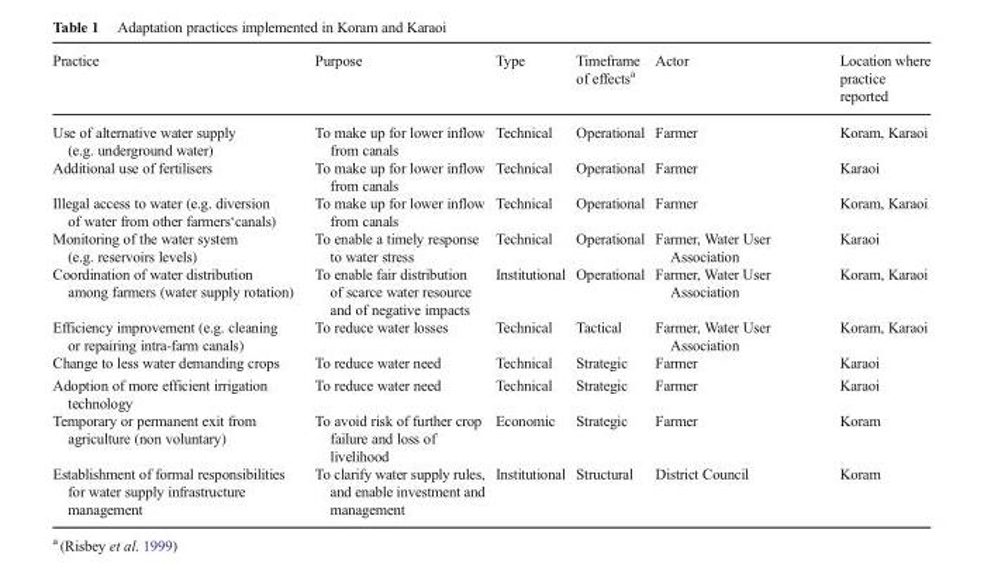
<table><thead><tr><td>Practice</td><td>Purpose</td><td>Type</td><td>Timeframe of effects<sup>a</sup></td><td>Actor</td><td>Location where practice reported</td></tr></thead><tbody><tr><td>Use of alternative water supply (e.g. underground water)</td><td>To make up for lower inflow from canals</td><td>Technical</td><td>Operational</td><td>Farmer</td><td>Koram, Karaoi</td></tr><tr><td>Additional use of fertilisers</td><td>To make up for lower inflow from canals</td><td>Technical</td><td>Operational</td><td>Farmer</td><td>Karaoi</td></tr><tr><td>Illegal access to water (e.g. diversion of water from other farmers‘canals)</td><td>To make up for lower inflow from canals</td><td>Technical</td><td>Operational</td><td>Farmer</td><td>Koram, Karaoi</td></tr><tr><td>Monitoring of the water system (e.g. reservoirs levels)</td><td>To enable a timely response to water stress</td><td>Technical</td><td>Operational</td><td>Farmer, Water User Association</td><td>Karaoi</td></tr><tr><td>Coordination of water distribution among farmers (water supply rotation)</td><td>To enable fair distribution of scarce water resource and of negative impacts</td><td>Institutional</td><td>Operational</td><td>Farmer, Water User Association</td><td>Koram, Karaoi</td></tr><tr><td>Efficiency improvement (e.g. cleaning or repairing intra-farm canals)</td><td>To reduce water losses</td><td>Technical</td><td>Tactical</td><td>Farmer, Water User Association</td><td>Koram, Karaoi</td></tr><tr><td>Change to less water demanding crops</td><td>To reduce water need</td><td>Technical</td><td>Strategic</td><td>Farmer</td><td>Karaoi</td></tr><tr><td>Adoption of more efficient irrigation technology</td><td>To reduce water need</td><td>Technical</td><td>Strategic</td><td>Farmer</td><td>Karaoi</td></tr><tr><td>Temporary or permanent exit from agriculture (non voluntary)</td><td>To avoid risk of further crop failure and loss of livelihood</td><td>Economic</td><td>Strategic</td><td>Farmer</td><td>Koram</td></tr><tr><td>Establishment of formal responsibilities for water supply infrastructure management</td><td>To clarify water supply rules, and enable investment and management</td><td>Institutional</td><td>Structural</td><td>District Council</td><td>Koram</td></tr></tbody></table>